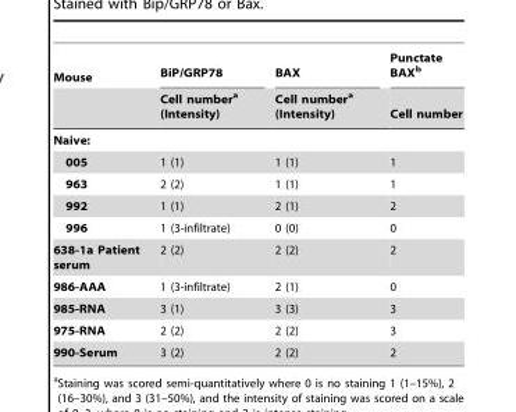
<table><thead><tr><td rowspan="2">Mouse</td><td rowspan="2">BiP/GRP78 Cell number<sup>a</sup> (Intensity)</td><td rowspan="2">BAX Cell number<sup>a</sup> (Intensity)</td><td rowspan="2">Punctate BAX<sup>b</sup> Cell number</td></tr><tr></tr></thead><tbody><tr><td colspan="4">Naive:</td></tr><tr><td>005</td><td>1 (1)</td><td>1 (1)</td><td>1</td></tr><tr><td>963</td><td>2 (2)</td><td>1 (1)</td><td>1</td></tr><tr><td>992</td><td>1 (1)</td><td>2 (1)</td><td>2</td></tr><tr><td>996</td><td>1 (3-infiltrate)</td><td>0 (0)</td><td>0</td></tr><tr><td>638-1a Patient serum</td><td>2 (2)</td><td>2 (2)</td><td>2</td></tr><tr><td>986-AAA</td><td>1 (3-infiltrate)</td><td>2 (1)</td><td>0</td></tr><tr><td>985-RNA</td><td>3 (1)</td><td>3 (3)</td><td>3</td></tr><tr><td>975-RNA</td><td>2 (2)</td><td>2 (2)</td><td>3</td></tr><tr><td>990-Serum</td><td>3 (2)</td><td>2 (2)</td><td>2</td></tr></tbody></table>